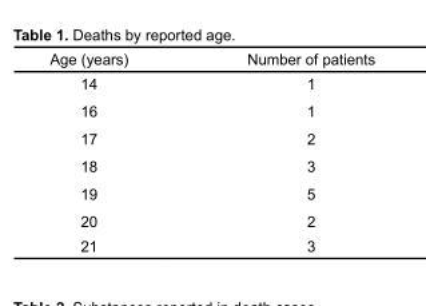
<table><thead><tr><td>Age (years)</td><td>Number of patients</td></tr></thead><tbody><tr><td>14</td><td>1</td></tr><tr><td>16</td><td>1</td></tr><tr><td>17</td><td>2</td></tr><tr><td>18</td><td>3</td></tr><tr><td>19</td><td>5</td></tr><tr><td>20</td><td>2</td></tr><tr><td>21</td><td>3</td></tr></tbody></table>